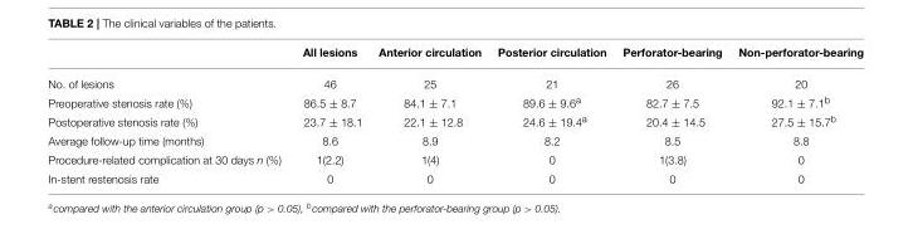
<table><thead><tr><td></td><td>All lesions</td><td>Anterior circulation</td><td>Posterior circulation</td><td>Perforator-bearing</td><td>Non-perforator-bearing</td></tr></thead><tbody><tr><td>No. of lesions</td><td>46</td><td>25</td><td>21</td><td>26</td><td>20</td></tr><tr><td>Preoperative stenosis rate (%)</td><td>86.5 ± 8.7</td><td>84.1 ± 7.1</td><td>89.6 ± 9.6<sup>a</sup></td><td>82.7 ± 7.5</td><td>92.1 ± 7.1<sup>b</sup></td></tr><tr><td>Postoperative stenosis rate (%)</td><td>23.7 ± 18.1</td><td>22.1 ± 12.8</td><td>24.6 ± 19.4<sup>a</sup></td><td>20.4 ± 14.5</td><td>27.5 ± 15.7<sup>b</sup></td></tr><tr><td>Average follow-up time (months)</td><td>8.6</td><td>8.9</td><td>8.2</td><td>8.5</td><td>8.8</td></tr><tr><td>Procedure-related complication at 30 days n (%)</td><td>1(2.2)</td><td>1(4)</td><td>0</td><td>1(3.8)</td><td>0</td></tr><tr><td>In-stent restenosis rate</td><td>0</td><td>0</td><td>0</td><td>0</td><td>0</td></tr></tbody></table>